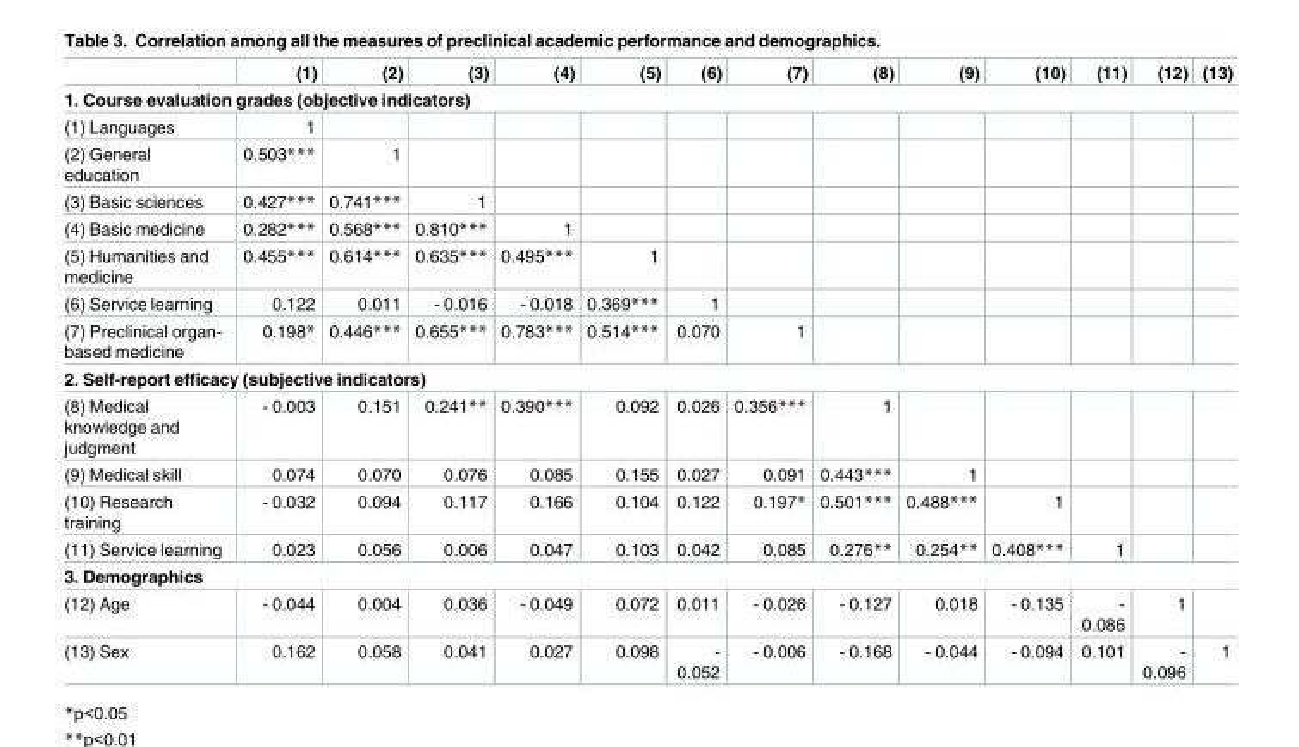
<table><thead><tr><td></td><td>(1)</td><td>(2)</td><td>(3)</td><td>(4)</td><td>(5)</td><td>(6)</td><td>(7)</td><td>(8)</td><td>(9)</td><td>(10)</td><td>(11)</td><td>(12)</td><td>(13)</td></tr></thead><tbody><tr><td colspan="14">1. Course evaluation grades (objective indicators)</td></tr><tr><td>(1) Languages</td><td>1</td><td></td><td></td><td></td><td></td><td></td><td></td><td></td><td></td><td></td><td></td><td></td><td></td></tr><tr><td>(2) General education</td><td>0.503***</td><td>1</td><td></td><td></td><td></td><td></td><td></td><td></td><td></td><td></td><td></td><td></td><td></td></tr><tr><td>(3) Basic sciences</td><td>0.427***</td><td>0.741***</td><td>1</td><td></td><td></td><td></td><td></td><td></td><td></td><td></td><td></td><td></td><td></td></tr><tr><td>(4) Basic medicine</td><td>0.282***</td><td>0.568***</td><td>0.810***</td><td>1</td><td></td><td></td><td></td><td></td><td></td><td></td><td></td><td></td><td></td></tr><tr><td>(5) Humanities and medicine</td><td>0.455***</td><td>0.614***</td><td>0.635***</td><td>0.495***</td><td>1</td><td></td><td></td><td></td><td></td><td></td><td></td><td></td><td></td></tr><tr><td>(6) Service learning</td><td>0.122</td><td>0.011</td><td>- 0.016</td><td>- 0.018</td><td>0.369***</td><td>1</td><td></td><td></td><td></td><td></td><td></td><td></td><td></td></tr><tr><td>(7) Preclinical organ- based medicine</td><td>0.198*</td><td>0.446***</td><td>0.655***</td><td>0.783***</td><td>0.514***</td><td>0.070</td><td>1</td><td></td><td></td><td></td><td></td><td></td><td></td></tr><tr><td colspan="14">2. Self-report efficacy (subjective indicators)</td></tr><tr><td>(8) Medical knowledge and judgment</td><td>- 0.003</td><td>0.151</td><td>0.241**</td><td>0.390***</td><td>0.092</td><td>0.026</td><td>0.356***</td><td>1</td><td></td><td></td><td></td><td></td><td></td></tr><tr><td>(9) Medical skill</td><td>0.074</td><td>0.070</td><td>0.076</td><td>0.085</td><td>0.155</td><td>0.027</td><td>0.091</td><td>0.443***</td><td>1</td><td></td><td></td><td></td><td></td></tr><tr><td>(10) Research training</td><td>- 0.032</td><td>0.094</td><td>0.117</td><td>0.166</td><td>0.104</td><td>0.122</td><td>0.197*</td><td>0.501***</td><td>0.488***</td><td>1</td><td></td><td></td><td></td></tr><tr><td>(11) Service learning</td><td>0.023</td><td>0.056</td><td>0.006</td><td>0.047</td><td>0.103</td><td>0.042</td><td>0.085</td><td>0.276**</td><td>0.254**</td><td>0.408***</td><td>1</td><td></td><td></td></tr><tr><td colspan="14">3. Demographics</td></tr><tr><td>(12) Age</td><td>- 0.044</td><td>0.004</td><td>0.036</td><td>- 0.049</td><td>0.072</td><td>0.011</td><td>- 0.026</td><td>- 0.127</td><td>0.018</td><td>- 0.135</td><td>- 0.086</td><td>1</td><td></td></tr><tr><td>(13) Sex</td><td>0.162</td><td>0.058</td><td>0.041</td><td>0.027</td><td>0.098</td><td>- 0.052</td><td>- 0.006</td><td>- 0.168</td><td>- 0.044</td><td>- 0.094</td><td>0.101</td><td>- 0.096</td><td>1</td></tr></tbody></table>